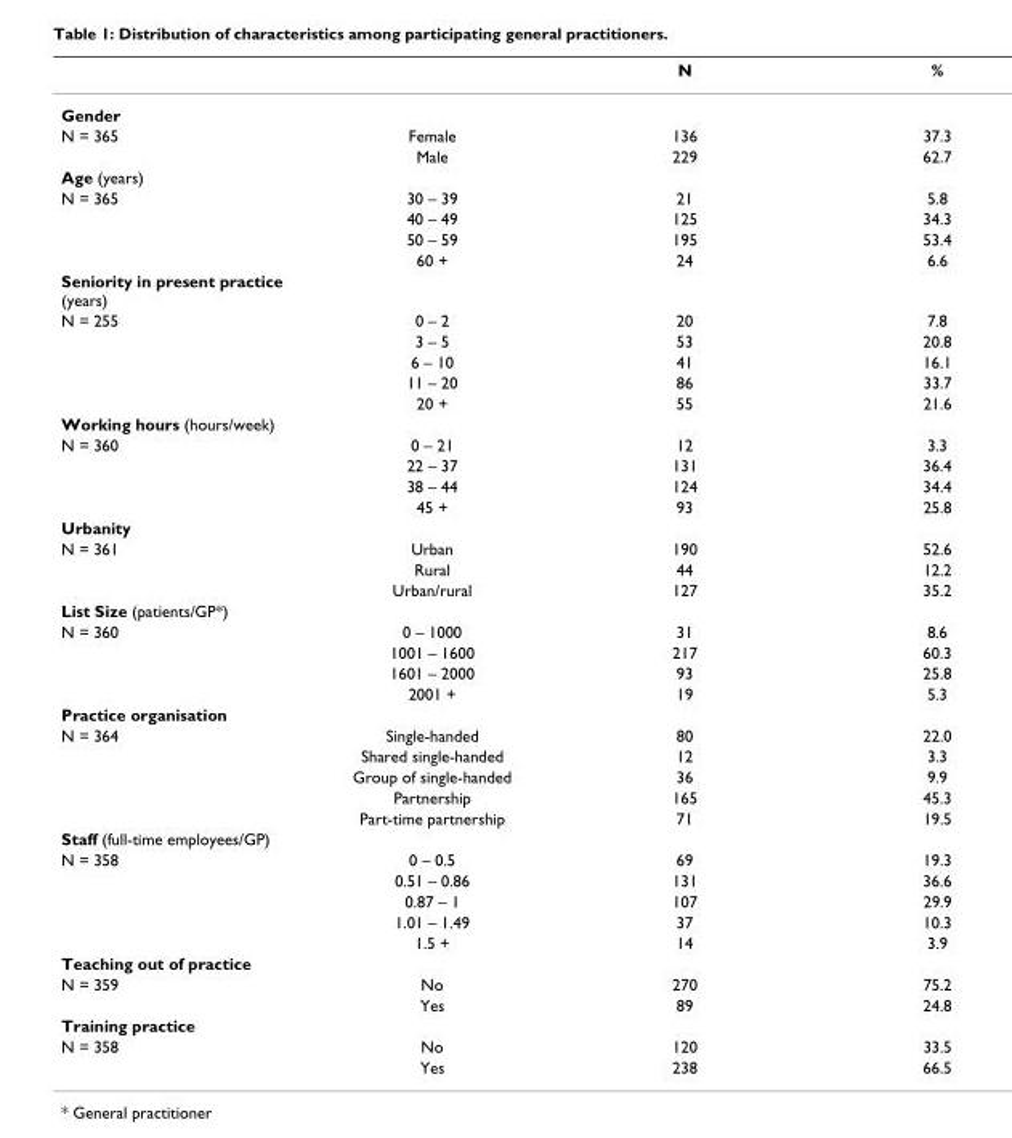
<table><thead><tr><td></td><td></td><td>N</td><td>%</td></tr></thead><tbody><tr><td colspan="4">Gender</td></tr><tr><td rowspan="2">N = 365</td><td>Female</td><td>136</td><td>37.3</td></tr><tr><td>Male</td><td>229</td><td>62.7</td></tr><tr><td colspan="4">Age (years)</td></tr><tr><td rowspan="4">N = 365</td><td>30 – 39</td><td>21</td><td>5.8</td></tr><tr><td>40 – 49</td><td>125</td><td>34.3</td></tr><tr><td>50 – 59</td><td>195</td><td>53.4</td></tr><tr><td>60 +</td><td>24</td><td>6.6</td></tr><tr><td colspan="4">Seniority in present practice (years)</td></tr><tr><td rowspan="5">N = 255</td><td>0 – 2</td><td>20</td><td>7.8</td></tr><tr><td>3 – 5</td><td>53</td><td>20.8</td></tr><tr><td>6 – 10</td><td>41</td><td>16.1</td></tr><tr><td>11 – 20</td><td>86</td><td>33.7</td></tr><tr><td>20 +</td><td>55</td><td>21.6</td></tr><tr><td colspan="4">Working hours (hours/week)</td></tr><tr><td rowspan="4">N = 360</td><td>0 – 21</td><td>12</td><td>3.3</td></tr><tr><td>22 – 37</td><td>131</td><td>36.4</td></tr><tr><td>38 – 44</td><td>124</td><td>34.4</td></tr><tr><td>45 +</td><td>93</td><td>25.8</td></tr><tr><td colspan="4">Urbanity</td></tr><tr><td rowspan="3">N = 361</td><td>Urban</td><td>190</td><td>52.6</td></tr><tr><td>Rural</td><td>44</td><td>12.2</td></tr><tr><td>Urban/rural</td><td>127</td><td>35.2</td></tr><tr><td colspan="4">List Size (patients/GP*)</td></tr><tr><td rowspan="4">N = 360</td><td>0 – 1000</td><td>31</td><td>8.6</td></tr><tr><td>1001 – 1600</td><td>217</td><td>60.3</td></tr><tr><td>1601 – 2000</td><td>93</td><td>25.8</td></tr><tr><td>2001 +</td><td>19</td><td>5.3</td></tr><tr><td colspan="4">Practice organisation</td></tr><tr><td rowspan="5">N = 364</td><td>Single-handed</td><td>80</td><td>22.0</td></tr><tr><td>Shared single-handed</td><td>12</td><td>3.3</td></tr><tr><td>Group of single-handed</td><td>36</td><td>9.9</td></tr><tr><td>Partnership</td><td>165</td><td>45.3</td></tr><tr><td>Part-time partnership</td><td>71</td><td>19.5</td></tr><tr><td colspan="4">Staff (full-time employees/GP)</td></tr><tr><td rowspan="5">N = 358</td><td>0 – 0.5</td><td>69</td><td>19.3</td></tr><tr><td>0.51 – 0.86</td><td>131</td><td>36.6</td></tr><tr><td>0.87 – 1</td><td>107</td><td>29.9</td></tr><tr><td>1.01 – 1.49</td><td>37</td><td>10.3</td></tr><tr><td>1.5 +</td><td>14</td><td>3.9</td></tr><tr><td colspan="4">Teaching out of practice</td></tr><tr><td rowspan="2">N = 359</td><td>No</td><td>270</td><td>75.2</td></tr><tr><td>Yes</td><td>89</td><td>24.8</td></tr><tr><td colspan="4">Training practice</td></tr><tr><td rowspan="2">N = 358</td><td>No</td><td>120</td><td>33.5</td></tr><tr><td>Yes</td><td>238</td><td>66.5</td></tr></tbody></table>